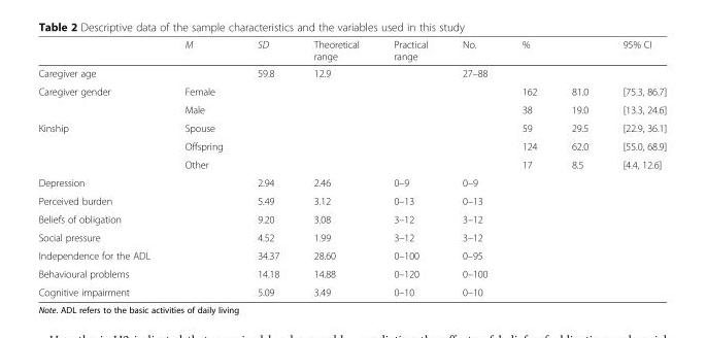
<table><thead><tr><td></td><td>M</td><td rowspan="2">SD 59.8</td><td rowspan="2">Theoretical range 12.9</td><td rowspan="2">Practical range</td><td rowspan="2">No. 27–88</td><td colspan="2">%</td><td rowspan="2">95% CI</td></tr><tr><td colspan="2">Caregiver age</td><td></td><td></td></tr></thead><tbody><tr><td rowspan="2">Caregiver gender</td><td>Female</td><td></td><td></td><td></td><td></td><td>162</td><td>81.0</td><td>[75.3, 86.7]</td></tr><tr><td>Male</td><td></td><td></td><td></td><td></td><td>38</td><td>19.0</td><td>[13.3, 24.6]</td></tr><tr><td rowspan="3">Kinship</td><td>Spouse</td><td></td><td></td><td></td><td></td><td>59</td><td>29.5</td><td>[22.9, 36.1]</td></tr><tr><td>Offspring</td><td></td><td></td><td></td><td></td><td>124</td><td>62.0</td><td>[55.0, 68.9]</td></tr><tr><td>Other</td><td></td><td></td><td></td><td></td><td>17</td><td>8.5</td><td>[4.4, 12.6]</td></tr><tr><td>Depression</td><td></td><td>2.94</td><td>2.46</td><td>0–9</td><td>0–9</td><td></td><td></td><td></td></tr><tr><td>Perceived burden</td><td></td><td>5.49</td><td>3.12</td><td>0–13</td><td>0–13</td><td></td><td></td><td></td></tr><tr><td>Beliefs of obligation</td><td></td><td>9.20</td><td>3.08</td><td>3–12</td><td>3–12</td><td></td><td></td><td></td></tr><tr><td>Social pressure</td><td></td><td>4.52</td><td>1.99</td><td>3–12</td><td>3–12</td><td></td><td></td><td></td></tr><tr><td>Independence for the ADL</td><td></td><td>34.37</td><td>28.60</td><td>0–100</td><td>0–95</td><td></td><td></td><td></td></tr><tr><td>Behavioural problems</td><td></td><td>14.18</td><td>14.88</td><td>0–120</td><td>0–100</td><td></td><td></td><td></td></tr><tr><td>Cognitive impairment</td><td></td><td>5.09</td><td>3.49</td><td>0–10</td><td>0–10</td><td></td><td></td><td></td></tr></tbody></table>